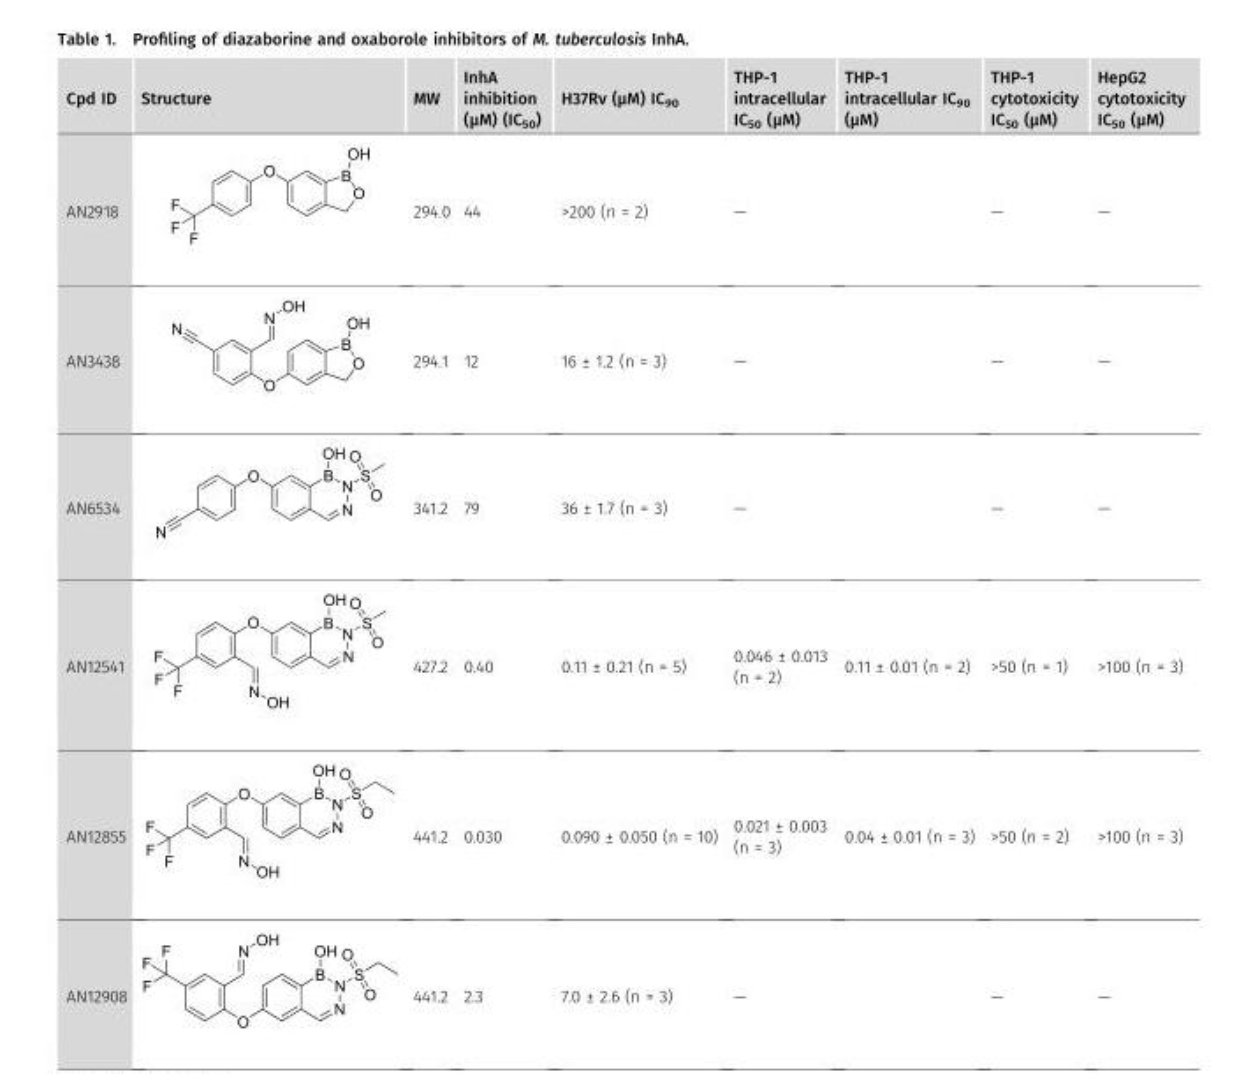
<table><thead><tr><td>Cpd ID</td><td>Structure</td><td>MW</td><td>InhA inhibition (μM) (IC<sub>50</sub>)</td><td>H37Rv (μM) IC<sub>90</sub></td><td>THP-1 intracellular IC<sub>50</sub> (μM)</td><td>THP-1 intracellular IC<sub>90</sub> (μM)</td><td>THP-1 cytotoxicity IC<sub>50</sub> (μM)</td><td>HepG2 cytotoxicity IC<sub>50</sub> (μM)</td></tr></thead><tbody><tr><td>AN2918</td><td></td><td>294.0</td><td>44</td><td>&gt;200 (n = 2)</td><td>—</td><td></td><td>—</td><td>—</td></tr><tr><td>AN3438</td><td></td><td>294.1</td><td>12</td><td>16 ± 1.2 (n = 3)</td><td>—</td><td></td><td>—</td><td>—</td></tr><tr><td>AN6534</td><td></td><td>341.2</td><td>79</td><td>36 ± 1.7 (n = 3)</td><td>—</td><td></td><td>—</td><td>—</td></tr><tr><td>AN12541</td><td></td><td>427.2</td><td>0.40</td><td>0.11 ± 0.21 (n = 5)</td><td>0.046 ± 0.013 (n = 2)</td><td>0.11 ± 0.01 (n = 2)</td><td>&gt;50 (n = 1)</td><td>&gt;100 (n = 3)</td></tr><tr><td>AN12855</td><td></td><td>441.2</td><td>0.030</td><td>0.090 ± 0.050 (n = 10)</td><td>0.021 ± 0.003 (n = 3)</td><td>0.04 ± 0.01 (n = 3)</td><td>&gt;50 (n = 2)</td><td>&gt;100 (n = 3)</td></tr><tr><td>AN12908</td><td></td><td>441.2</td><td>2.3</td><td>7.0 ± 2.6 (n = 3)</td><td>—</td><td></td><td>—</td><td>—</td></tr></tbody></table>